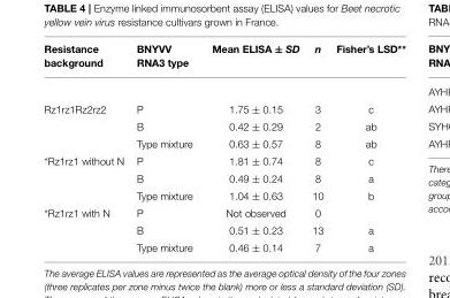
<table><thead><tr><td>Resistance background</td><td>BNYVV RNA3 type</td><td>Mean ELISA ± SD</td><td>n</td><td>Fisher’s LSD**</td></tr></thead><tbody><tr><td rowspan="3">Rz1rz1Rz2rz2</td><td>P</td><td>1.75 ± 0.15</td><td>3</td><td>c</td></tr><tr><td>B</td><td>0.42 ± 0.29</td><td>2</td><td>ab</td></tr><tr><td>Type mixture</td><td>0.63 ± 0.57</td><td>8</td><td>ab</td></tr><tr><td rowspan="3">*Rz1rz1 without N</td><td>P</td><td>1.81 ± 0.74</td><td>8</td><td>c</td></tr><tr><td>B</td><td>0.49 ± 0.24</td><td>8</td><td>a</td></tr><tr><td>Type mixture</td><td>1.04 ± 0.63</td><td>10</td><td>b</td></tr><tr><td rowspan="3">*Rz1rz1 with N</td><td>P</td><td>Not observed</td><td>0</td><td></td></tr><tr><td>B</td><td>0.51 ± 0.23</td><td>13</td><td>a</td></tr><tr><td>Type mixture</td><td>0.46 ± 0.14</td><td>7</td><td>a</td></tr></tbody></table>